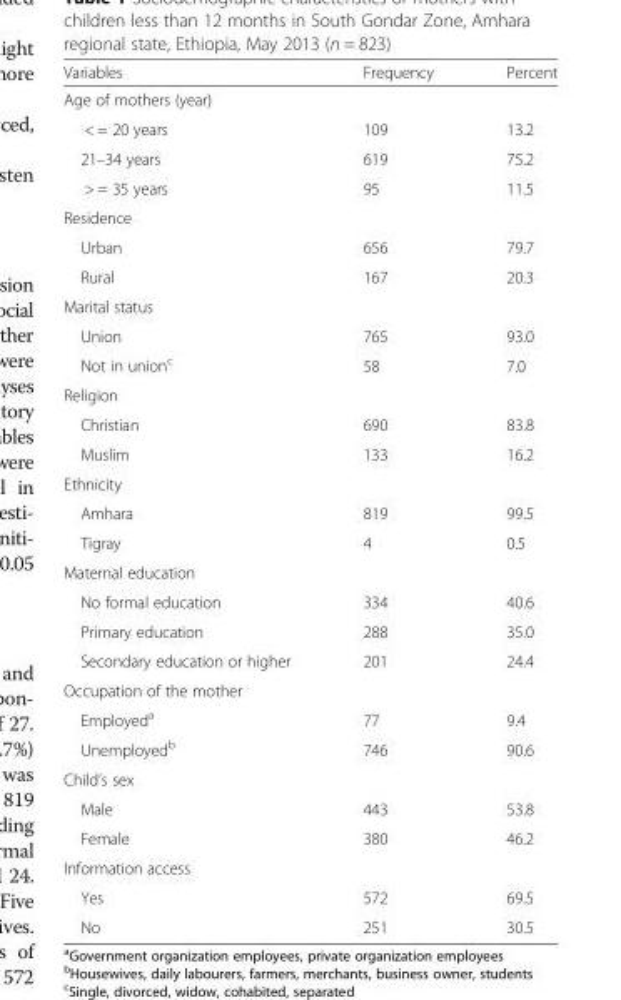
<table><thead><tr><td>Variables</td><td>Frequency</td><td>Percent</td></tr></thead><tbody><tr><td colspan="3">Age of mothers (year)</td></tr><tr><td>&lt; = 20 years</td><td>109</td><td>13.2</td></tr><tr><td>21–34 years</td><td>619</td><td>75.2</td></tr><tr><td>&gt; = 35 years</td><td>95</td><td>11.5</td></tr><tr><td colspan="3">Residence</td></tr><tr><td>Urban</td><td>656</td><td>79.7</td></tr><tr><td>Rural</td><td>167</td><td>20.3</td></tr><tr><td colspan="3">Marital status</td></tr><tr><td>Union</td><td>765</td><td>93.0</td></tr><tr><td>Not in union<sup>c</sup></td><td>58</td><td>7.0</td></tr><tr><td colspan="3">Religion</td></tr><tr><td>Christian</td><td>690</td><td>83.8</td></tr><tr><td>Muslim</td><td>133</td><td>16.2</td></tr><tr><td colspan="3">Ethnicity</td></tr><tr><td>Amhara</td><td>819</td><td>99.5</td></tr><tr><td>Tigray</td><td>4</td><td>0.5</td></tr><tr><td colspan="3">Maternal education</td></tr><tr><td>No formal education</td><td>334</td><td>40.6</td></tr><tr><td>Primary education</td><td>288</td><td>35.0</td></tr><tr><td>Secondary education or higher</td><td>201</td><td>24.4</td></tr><tr><td colspan="3">Occupation of the mother</td></tr><tr><td>Employed<sup>a</sup></td><td>77</td><td>9.4</td></tr><tr><td>Unemployed<sup>b</sup></td><td>746</td><td>90.6</td></tr><tr><td colspan="3">Child’s sex</td></tr><tr><td>Male</td><td>443</td><td>53.8</td></tr><tr><td>Female</td><td>380</td><td>46.2</td></tr><tr><td colspan="3">Information access</td></tr><tr><td>Yes</td><td>572</td><td>69.5</td></tr><tr><td>No</td><td>251</td><td>30.5</td></tr></tbody></table>